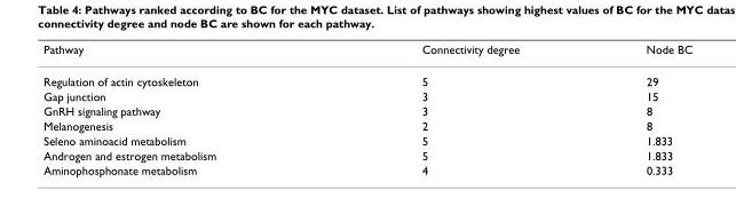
<table><thead><tr><td>Pathway</td><td>Connectivity degree</td><td>Node BC</td></tr></thead><tbody><tr><td>Regulation of actin cytoskeleton</td><td>5</td><td>29</td></tr><tr><td>Gap junction</td><td>3</td><td>15</td></tr><tr><td>GnRH signaling pathway</td><td>3</td><td>8</td></tr><tr><td>Melanogenesis</td><td>2</td><td>8</td></tr><tr><td>Seleno aminoacid metabolism</td><td>5</td><td>1.833</td></tr><tr><td>Androgen and estrogen metabolism</td><td>5</td><td>1.833</td></tr><tr><td>Aminophosphonate metabolism</td><td>4</td><td>0.333</td></tr></tbody></table>